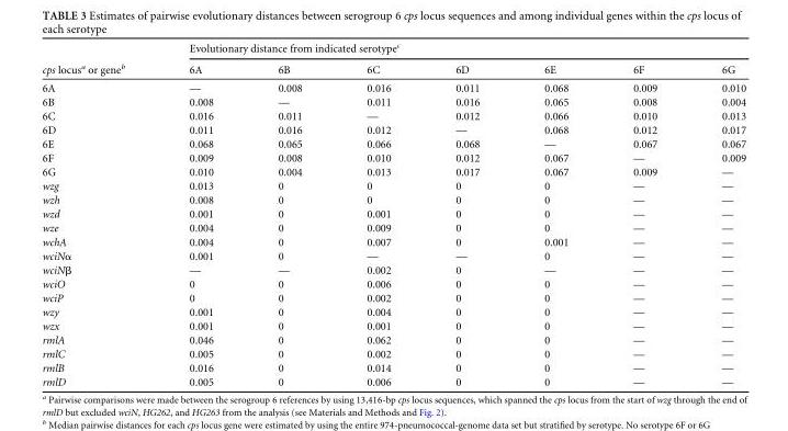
<table><thead><tr><td rowspan="2">cps locus<sup>a</sup> or gene<sup>b</sup></td><td colspan="7">Evolutionary distance from indicated serotype<sup>c</sup></td></tr><tr><td>6A</td><td>6B</td><td>6C</td><td>6D</td><td>6E</td><td>6F</td><td>6G</td></tr></thead><tbody><tr><td>6A</td><td>—</td><td>0.008</td><td>0.016</td><td>0.011</td><td>0.068</td><td>0.009</td><td>0.010</td></tr><tr><td>6B</td><td>0.008</td><td>—</td><td>0.011</td><td>0.016</td><td>0.065</td><td>0.008</td><td>0.004</td></tr><tr><td>6C</td><td>0.016</td><td>0.011</td><td>—</td><td>0.012</td><td>0.066</td><td>0.010</td><td>0.013</td></tr><tr><td>6D</td><td>0.011</td><td>0.016</td><td>0.012</td><td>—</td><td>0.068</td><td>0.012</td><td>0.017</td></tr><tr><td>6E</td><td>0.068</td><td>0.065</td><td>0.066</td><td>0.068</td><td>—</td><td>0.067</td><td>0.067</td></tr><tr><td>6F</td><td>0.009</td><td>0.008</td><td>0.010</td><td>0.012</td><td>0.067</td><td>—</td><td>0.009</td></tr><tr><td>6G</td><td>0.010</td><td>0.004</td><td>0.013</td><td>0.017</td><td>0.067</td><td>0.009</td><td>—</td></tr><tr><td>wzg</td><td>0.013</td><td>0</td><td>0</td><td>0</td><td>0</td><td>—</td><td>—</td></tr><tr><td>wzh</td><td>0.008</td><td>0</td><td>0</td><td>0</td><td>0</td><td>—</td><td>—</td></tr><tr><td>wzd</td><td>0.001</td><td>0</td><td>0.001</td><td>0</td><td>0</td><td>—</td><td>—</td></tr><tr><td>wze</td><td>0.004</td><td>0</td><td>0.009</td><td>0</td><td>0</td><td>—</td><td>—</td></tr><tr><td>wchA</td><td>0.004</td><td>0</td><td>0.007</td><td>0</td><td>0.001</td><td>—</td><td>—</td></tr><tr><td>wciNα</td><td>0.001</td><td>0</td><td>—</td><td>—</td><td>0</td><td>—</td><td>—</td></tr><tr><td>wciNβ</td><td>—</td><td>—</td><td>0.002</td><td>0</td><td>—</td><td>—</td><td>—</td></tr><tr><td>wciO</td><td>0</td><td>0</td><td>0.006</td><td>0</td><td>0</td><td>—</td><td>—</td></tr><tr><td>wciP</td><td>0</td><td>0</td><td>0.002</td><td>0</td><td>0</td><td>—</td><td>—</td></tr><tr><td>wzy</td><td>0.001</td><td>0</td><td>0.004</td><td>0</td><td>0</td><td>—</td><td>—</td></tr><tr><td>wzx</td><td>0.001</td><td>0</td><td>0.001</td><td>0</td><td>0</td><td>—</td><td>—</td></tr><tr><td>rmlA</td><td>0.046</td><td>0</td><td>0.062</td><td>0</td><td>0</td><td>—</td><td>—</td></tr><tr><td>rmlC</td><td>0.005</td><td>0</td><td>0.002</td><td>0</td><td>0</td><td>—</td><td>—</td></tr><tr><td>rmlB</td><td>0.016</td><td>0</td><td>0.014</td><td>0</td><td>0</td><td>—</td><td>—</td></tr><tr><td>rmlD</td><td>0.005</td><td>0</td><td>0.006</td><td>0</td><td>0</td><td>—</td><td>—</td></tr></tbody></table>